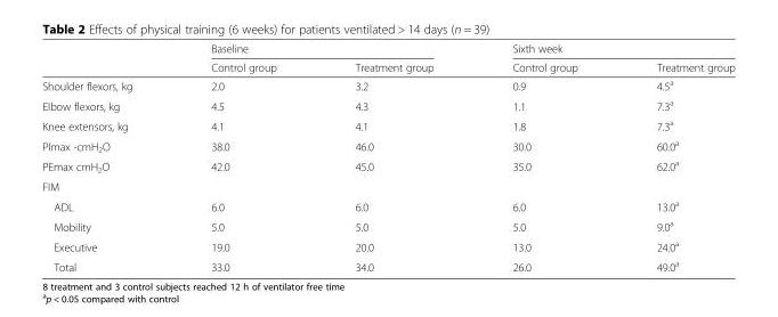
<table><thead><tr><td rowspan="2"></td><td colspan="2">Baseline</td><td colspan="2">Sixth week</td></tr><tr><td>Control group</td><td>Treatment group</td><td>Control group</td><td>Treatment group</td></tr></thead><tbody><tr><td>Shoulder flexors, kg</td><td>2.0</td><td>3.2</td><td>0.9</td><td>4.5<sup>a</sup></td></tr><tr><td>Elbow flexors, kg</td><td>4.5</td><td>4.3</td><td>1.1</td><td>7.3<sup>a</sup></td></tr><tr><td>Knee extensors, kg</td><td>4.1</td><td>4.1</td><td>1.8</td><td>7.3<sup>a</sup></td></tr><tr><td>PImax -cmH<sub>2</sub>O</td><td>38.0</td><td>46.0</td><td>30.0</td><td>60.0<sup>a</sup></td></tr><tr><td>PEmax cmH<sub>2</sub>O</td><td>42.0</td><td>45.0</td><td>35.0</td><td>62.0<sup>a</sup></td></tr><tr><td colspan="5">FIM</td></tr><tr><td>ADL</td><td>6.0</td><td>6.0</td><td>6.0</td><td>13.0<sup>a</sup></td></tr><tr><td>Mobility</td><td>5.0</td><td>5.0</td><td>5.0</td><td>9.0<sup>a</sup></td></tr><tr><td>Executive</td><td>19.0</td><td>20.0</td><td>13.0</td><td>24.0<sup>a</sup></td></tr><tr><td>Total</td><td>33.0</td><td>34.0</td><td>26.0</td><td>49.0<sup>a</sup></td></tr></tbody></table>